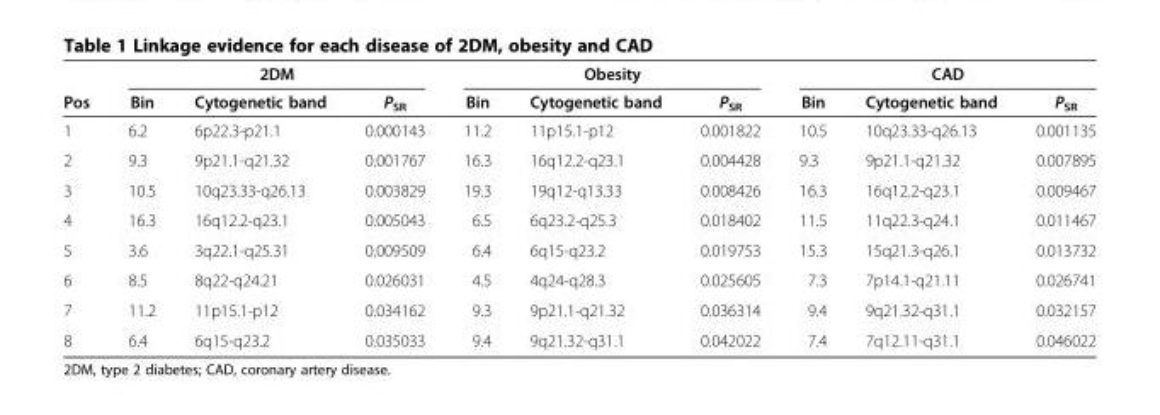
<table><thead><tr><td rowspan="2">Pos</td><td colspan="3">2DM</td><td colspan="3">Obesity</td><td colspan="3">CAD</td></tr><tr><td>Bin</td><td>Cytogenetic band</td><td>P<sub>SR</sub></td><td>Bin</td><td>Cytogenetic band</td><td>P<sub>SR</sub></td><td>Bin</td><td>Cytogenetic band</td><td>P<sub>SR</sub></td></tr></thead><tbody><tr><td>1</td><td>6.2</td><td>6p22.3-p21.1</td><td>0.000143</td><td>11.2</td><td>11p15.1-p12</td><td>0.001822</td><td>10.5</td><td>10q23.33-q26.13</td><td>0.001135</td></tr><tr><td>2</td><td>9.3</td><td>9p21.1-q21.32</td><td>0.001767</td><td>16.3</td><td>16q12.2-q23.1</td><td>0.004428</td><td>9.3</td><td>9p21.1-q21.32</td><td>0.007895</td></tr><tr><td>3</td><td>10.5</td><td>10q23.33-q26.13</td><td>0.003829</td><td>19.3</td><td>19q12-q13.33</td><td>0.008426</td><td>16.3</td><td>16q12.2-q23.1</td><td>0.009467</td></tr><tr><td>4</td><td>16.3</td><td>16q12.2-q23.1</td><td>0.005043</td><td>6.5</td><td>6q23.2-q25.3</td><td>0.018402</td><td>11.5</td><td>11q22.3-q24.1</td><td>0.011467</td></tr><tr><td>5</td><td>3.6</td><td>3q22.1-q25.31</td><td>0.009509</td><td>6.4</td><td>6q15-q23.2</td><td>0.019753</td><td>15.3</td><td>15q21.3-q26.1</td><td>0.013732</td></tr><tr><td>6</td><td>8.5</td><td>8q22-q24.21</td><td>0.026031</td><td>4.5</td><td>4q24-q28.3</td><td>0.025605</td><td>7.3</td><td>7p14.1-q21.11</td><td>0.026741</td></tr><tr><td>7</td><td>11.2</td><td>11p15.1-p12</td><td>0.034162</td><td>9.3</td><td>9p21.1-q21.32</td><td>0.036314</td><td>9.4</td><td>9q21.32-q31.1</td><td>0.032157</td></tr><tr><td>8</td><td>6.4</td><td>6q15-q23.2</td><td>0.035033</td><td>9.4</td><td>9q21.32-q31.1</td><td>0.042022</td><td>7.4</td><td>7q12.11-q31.1</td><td>0.046022</td></tr></tbody></table>